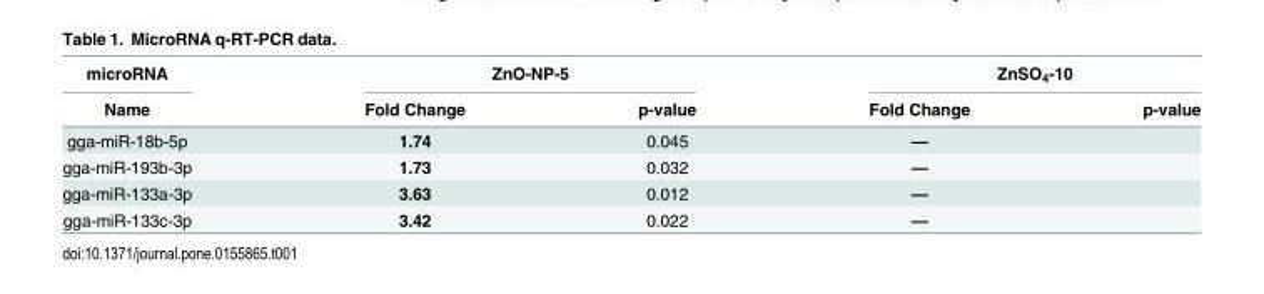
<table><thead><tr><td rowspan="2">microRNA Name</td><td colspan="2">ZnO-NP-5</td><td colspan="2">ZnSO<sub>4</sub>-10</td></tr><tr><td>Fold Change</td><td>p-value</td><td>Fold Change</td><td>p-value</td></tr></thead><tbody><tr><td>gga-miR-18b-5p</td><td>1.74</td><td>0.045</td><td>—</td><td></td></tr><tr><td>gga-miR-193b-3p</td><td>1.73</td><td>0.032</td><td>—</td><td></td></tr><tr><td>gga-miR-133a-3p</td><td>3.63</td><td>0.012</td><td>—</td><td></td></tr><tr><td>gga-miR-133c-3p</td><td>3.42</td><td>0.022</td><td>—</td><td></td></tr></tbody></table>